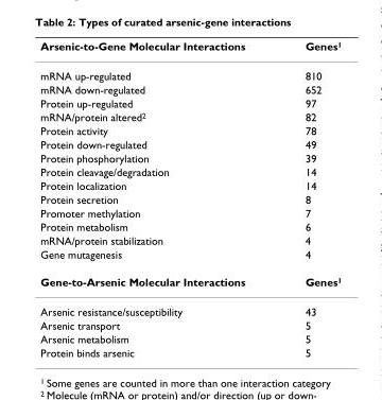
<table><thead><tr><td>Arsenic-to-Gene Molecular Interactions</td><td>Genes<sup>1</sup></td></tr></thead><tbody><tr><td>mRNA up-regulated</td><td>810</td></tr><tr><td>mRNA down-regulated</td><td>652</td></tr><tr><td>Protein up-regulated</td><td>97</td></tr><tr><td>mRNA/protein altered<sup>2</sup></td><td>82</td></tr><tr><td>Protein activity</td><td>78</td></tr><tr><td>Protein down-regulated</td><td>49</td></tr><tr><td>Protein phosphorylation</td><td>39</td></tr><tr><td>Protein cleavage/degradation</td><td>14</td></tr><tr><td>Protein localization</td><td>14</td></tr><tr><td>Protein secretion</td><td>8</td></tr><tr><td>Promoter methylation</td><td>7</td></tr><tr><td>Protein metabolism</td><td>6</td></tr><tr><td>mRNA/protein stabilization</td><td>4</td></tr><tr><td>Gene mutagenesis</td><td>4</td></tr><tr><td>Gene-to-Arsenic Molecular Interactions</td><td>Genes<sup>1</sup></td></tr><tr><td>Arsenic resistance/susceptibility</td><td>43</td></tr><tr><td>Arsenic transport</td><td>5</td></tr><tr><td>Arsenic metabolism</td><td>5</td></tr><tr><td>Protein binds arsenic</td><td>5</td></tr></tbody></table>